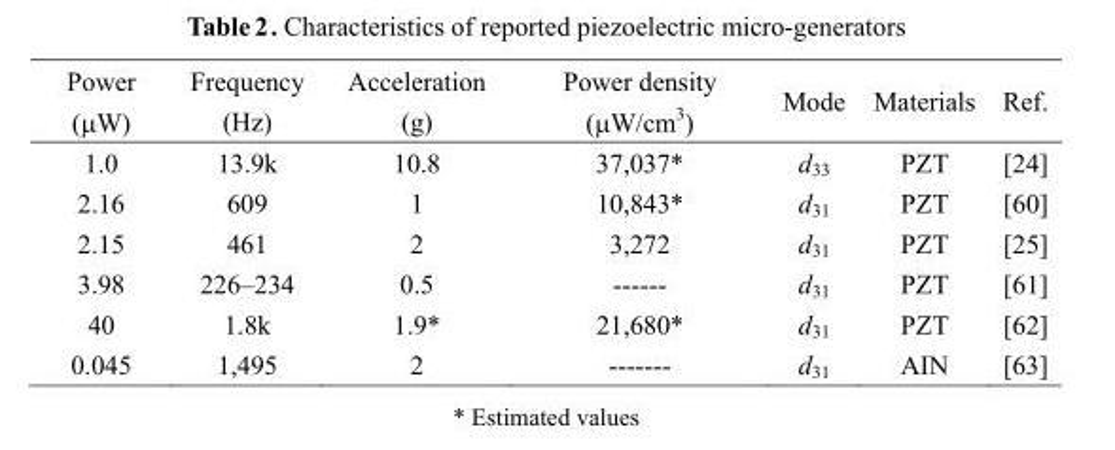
<table><thead><tr><td>Power (μW)</td><td>Frequency (Hz)</td><td>Acceleration (g)</td><td>Power density (μW/cm<sup>3</sup>)</td><td>Mode</td><td>Materials</td><td>Ref.</td></tr></thead><tbody><tr><td>1.0</td><td>13.9k</td><td>10.8</td><td>37,037*</td><td>d<sub>33</sub></td><td>PZT</td><td>[24]</td></tr><tr><td>2.16</td><td>609</td><td>1</td><td>10,843*</td><td>d<sub>31</sub></td><td>PZT</td><td>[60]</td></tr><tr><td>2.15</td><td>461</td><td>2</td><td>3,272</td><td>d<sub>31</sub></td><td>PZT</td><td>[25]</td></tr><tr><td>3.98</td><td>226–234</td><td>0.5</td><td>------</td><td>d<sub>31</sub></td><td>PZT</td><td>[61]</td></tr><tr><td>40</td><td>1.8k</td><td>1.9*</td><td>21,680*</td><td>d<sub>31</sub></td><td>PZT</td><td>[62]</td></tr><tr><td>0.045</td><td>1,495</td><td>2</td><td>-------</td><td>d<sub>31</sub></td><td>AIN</td><td>[63]</td></tr></tbody></table>